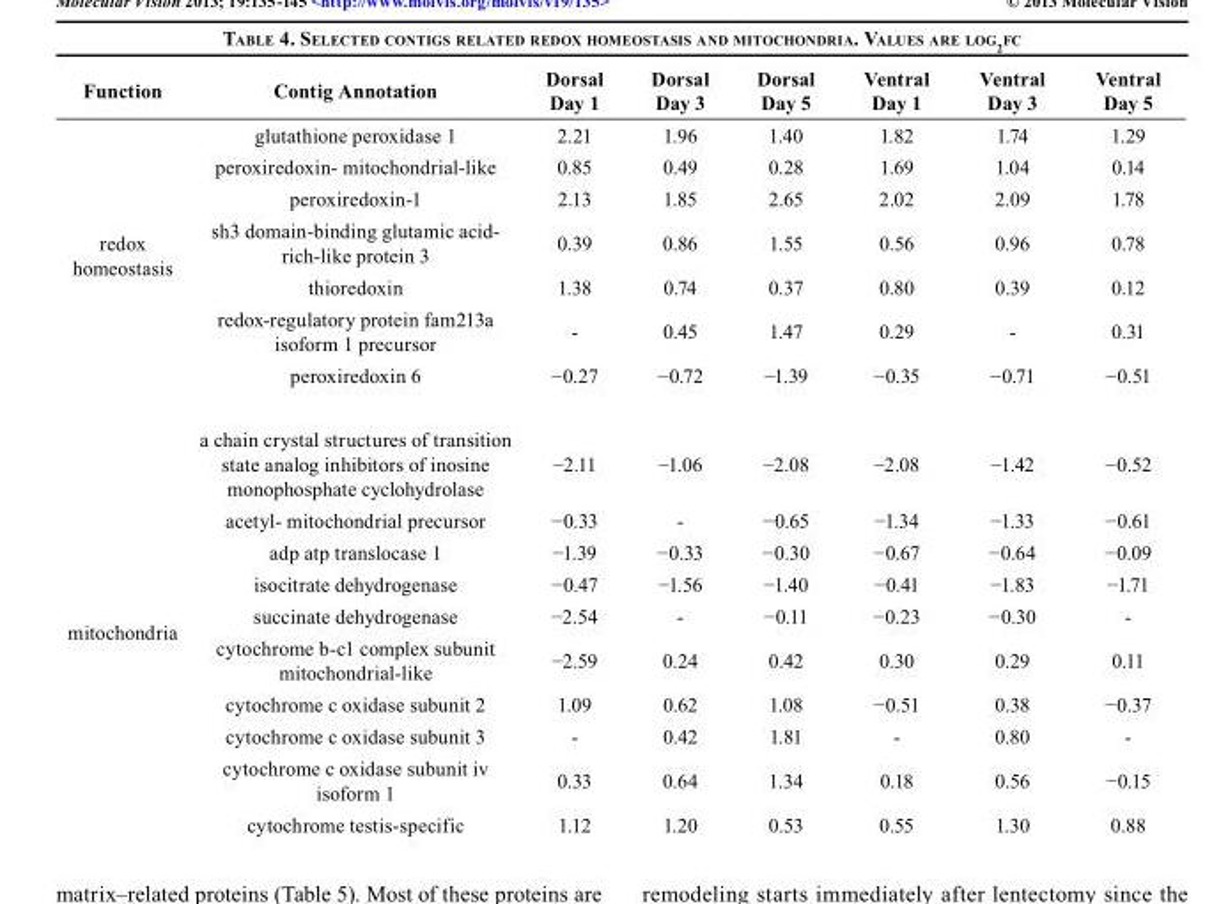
<table><thead><tr><td>Function</td><td>Contig Annotation</td><td>Dorsal Day 1</td><td>Dorsal Day 3</td><td>Dorsal Day 5</td><td>Ventral Day 1</td><td>Ventral Day 3</td><td>Ventral Day 5</td></tr></thead><tbody><tr><td rowspan="7">redox homeostasis</td><td>glutathione peroxidase 1</td><td>2.21</td><td>1.96</td><td>1.40</td><td>1.82</td><td>1.74</td><td>1.29</td></tr><tr><td>peroxiredoxin- mitochondrial-like</td><td>0.85</td><td>0.49</td><td>0.28</td><td>1.69</td><td>1.04</td><td>0.14</td></tr><tr><td>peroxiredoxin-1</td><td>2.13</td><td>1.85</td><td>2.65</td><td>2.02</td><td>2.09</td><td>1.78</td></tr><tr><td>sh3 domain-binding glutamic acid- rich-like protein 3</td><td>0.39</td><td>0.86</td><td>1.55</td><td>0.56</td><td>0.96</td><td>0.78</td></tr><tr><td>thioredoxin</td><td>1.38</td><td>0.74</td><td>0.37</td><td>0.80</td><td>0.39</td><td>0.12</td></tr><tr><td>redox-regulatory protein fam213a isoform 1 precursor</td><td>-</td><td>0.45</td><td>1.47</td><td>0.29</td><td>-</td><td>0.31</td></tr><tr><td>peroxiredoxin 6</td><td>−0.27</td><td>−0.72</td><td>−1.39</td><td>−0.35</td><td>−0.71</td><td>−0.51</td></tr><tr><td rowspan="10">mitochondria</td><td>a chain crystal structures of transition state analog inhibitors of inosine monophosphate cyclohydrolase</td><td>−2.11</td><td>−1.06</td><td>−2.08</td><td>−2.08</td><td>−1.42</td><td>−0.52</td></tr><tr><td>acetyl- mitochondrial precursor</td><td>−0.33</td><td>-</td><td>−0.65</td><td>−1.34</td><td>−1.33</td><td>−0.61</td></tr><tr><td>adp atp translocase 1</td><td>−1.39</td><td>−0.33</td><td>−0.30</td><td>−0.67</td><td>−0.64</td><td>−0.09</td></tr><tr><td>isocitrate dehydrogenase</td><td>−0.47</td><td>−1.56</td><td>−1.40</td><td>−0.41</td><td>−1.83</td><td>−1.71</td></tr><tr><td>succinate dehydrogenase</td><td>−2.54</td><td>-</td><td>−0.11</td><td>−0.23</td><td>−0.30</td><td>-</td></tr><tr><td>cytochrome b-c1 complex subunit mitochondrial-like</td><td>−2.59</td><td>0.24</td><td>0.42</td><td>0.30</td><td>0.29</td><td>0.11</td></tr><tr><td>cytochrome c oxidase subunit 2</td><td>1.09</td><td>0.62</td><td>1.08</td><td>−0.51</td><td>0.38</td><td>−0.37</td></tr><tr><td>cytochrome c oxidase subunit 3</td><td>-</td><td>0.42</td><td>1.81</td><td>-</td><td>0.80</td><td>-</td></tr><tr><td>cytochrome c oxidase subunit iv isoform 1</td><td>0.33</td><td>0.64</td><td>1.34</td><td>0.18</td><td>0.56</td><td>−0.15</td></tr><tr><td>cytochrome testis-specific</td><td>1.12</td><td>1.20</td><td>0.53</td><td>0.55</td><td>1.30</td><td>0.88</td></tr></tbody></table>